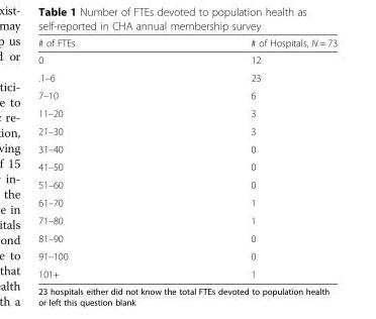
<table><thead><tr><td># of FTEs</td><td># of Hospitals, N = 73</td></tr></thead><tbody><tr><td>0</td><td>12</td></tr><tr><td>.1–6</td><td>23</td></tr><tr><td>7–10</td><td>6</td></tr><tr><td>11–20</td><td>3</td></tr><tr><td>21–30</td><td>3</td></tr><tr><td>31–40</td><td>0</td></tr><tr><td>41–50</td><td>0</td></tr><tr><td>51–60</td><td>0</td></tr><tr><td>61–70</td><td>1</td></tr><tr><td>71–80</td><td>1</td></tr><tr><td>81–90</td><td>0</td></tr><tr><td>91–100</td><td>0</td></tr><tr><td>101+</td><td>1</td></tr></tbody></table>